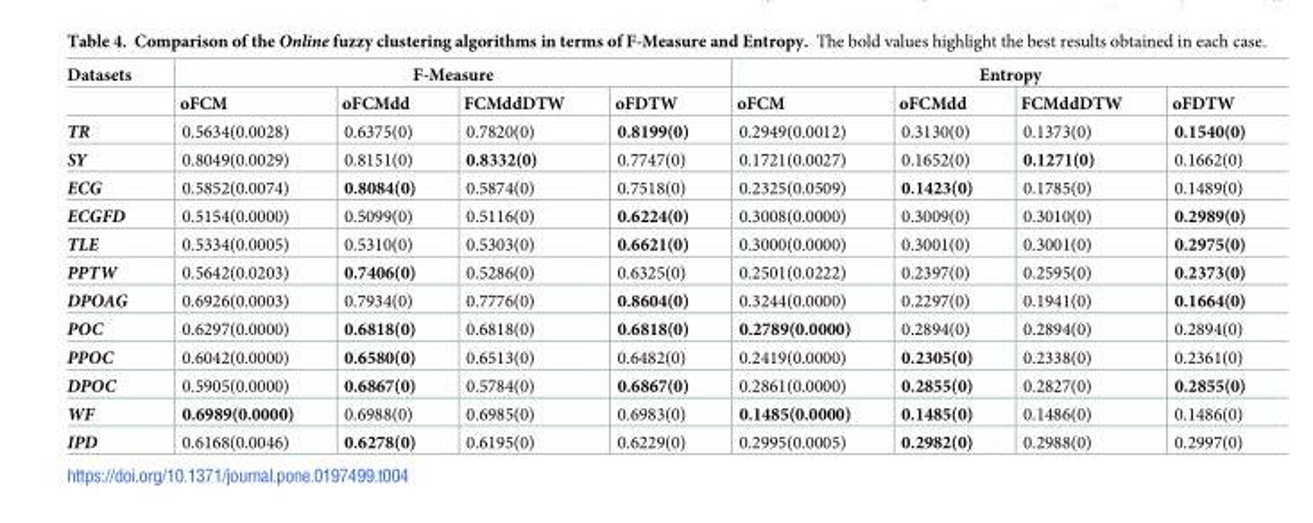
<table><thead><tr><td rowspan="2">Datasets</td><td colspan="4">F-Measure</td><td colspan="4">Entropy</td></tr><tr><td>oFCM</td><td>oFCMdd</td><td>FCMddDTW</td><td>oFDTW</td><td>oFCM</td><td>oFCMdd</td><td>FCMddDTW</td><td>oFDTW</td></tr></thead><tbody><tr><td>TR</td><td>0.5634(0.0028)</td><td>0.6375(0)</td><td>0.7820(0)</td><td>0.8199(0)</td><td>0.2949(0.0012)</td><td>0.3130(0)</td><td>0.1373(0)</td><td>0.1540(0)</td></tr><tr><td>SY</td><td>0.8049(0.0029)</td><td>0.8151(0)</td><td>0.8332(0)</td><td>0.7747(0)</td><td>0.1721(0.0027)</td><td>0.1652(0)</td><td>0.1271(0)</td><td>0.1662(0)</td></tr><tr><td>ECG</td><td>0.5852(0.0074)</td><td>0.8084(0)</td><td>0.5874(0)</td><td>0.7518(0)</td><td>0.2325(0.0509)</td><td>0.1423(0)</td><td>0.1785(0)</td><td>0.1489(0)</td></tr><tr><td>ECGFD</td><td>0.5154(0.0000)</td><td>0.5099(0)</td><td>0.5116(0)</td><td>0.6224(0)</td><td>0.3008(0.0000)</td><td>0.3009(0)</td><td>0.3010(0)</td><td>0.2989(0)</td></tr><tr><td>TLE</td><td>0.5334(0.0005)</td><td>0.5310(0)</td><td>0.5303(0)</td><td>0.6621(0)</td><td>0.3000(0.0000)</td><td>0.3001(0)</td><td>0.3001(0)</td><td>0.2975(0)</td></tr><tr><td>PPTW</td><td>0.5642(0.0203)</td><td>0.7406(0)</td><td>0.5286(0)</td><td>0.6325(0)</td><td>0.2501(0.0222)</td><td>0.2397(0)</td><td>0.2595(0)</td><td>0.2373(0)</td></tr><tr><td>DPOAG</td><td>0.6926(0.0003)</td><td>0.7934(0)</td><td>0.7776(0)</td><td>0.8604(0)</td><td>0.3244(0.0000)</td><td>0.2297(0)</td><td>0.1941(0)</td><td>0.1664(0)</td></tr><tr><td>POC</td><td>0.6297(0.0000)</td><td>0.6818(0)</td><td>0.6818(0)</td><td>0.6818(0)</td><td>0.2789(0.0000)</td><td>0.2894(0)</td><td>0.2894(0)</td><td>0.2894(0)</td></tr><tr><td>PPOC</td><td>0.6042(0.0000)</td><td>0.6580(0)</td><td>0.6513(0)</td><td>0.6482(0)</td><td>0.2419(0.0000)</td><td>0.2305(0)</td><td>0.2338(0)</td><td>0.2361(0)</td></tr><tr><td>DPOC</td><td>0.5905(0.0000)</td><td>0.6867(0)</td><td>0.5784(0)</td><td>0.6867(0)</td><td>0.2861(0.0000)</td><td>0.2855(0)</td><td>0.2827(0)</td><td>0.2855(0)</td></tr><tr><td>WF</td><td>0.6989(0.0000)</td><td>0.6988(0)</td><td>0.6985(0)</td><td>0.6983(0)</td><td>0.1485(0.0000)</td><td>0.1485(0)</td><td>0.1486(0)</td><td>0.1486(0)</td></tr><tr><td>IPD</td><td>0.6168(0.0046)</td><td>0.6278(0)</td><td>0.6195(0)</td><td>0.6229(0)</td><td>0.2995(0.0005)</td><td>0.2982(0)</td><td>0.2988(0)</td><td>0.2997(0)</td></tr></tbody></table>